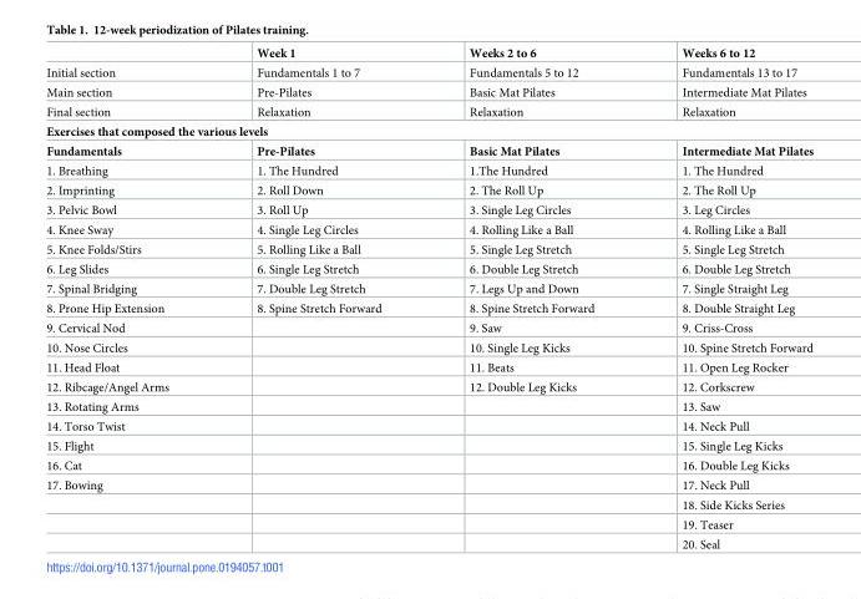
<table><thead><tr><td></td><td>Week 1</td><td>Weeks 2 to 6</td><td>Weeks 6 to 12</td></tr></thead><tbody><tr><td>Initial section</td><td>Fundamentals 1 to 7</td><td>Fundamentals 5 to 12</td><td>Fundamentals 13 to 17</td></tr><tr><td>Main section</td><td>Pre-Pilates</td><td>Basic Mat Pilates</td><td>Intermediate Mat Pilates</td></tr><tr><td>Final section</td><td>Relaxation</td><td>Relaxation</td><td>Relaxation</td></tr><tr><td colspan="4">Exercises that composed the various levels</td></tr><tr><td>Fundamentals</td><td>Pre-Pilates</td><td>Basic Mat Pilates</td><td>Intermediate Mat Pilates</td></tr><tr><td>1. Breathing</td><td>1. The Hundred</td><td>1.The Hundred</td><td>1. The Hundred</td></tr><tr><td>2. Imprinting</td><td>2. Roll Down</td><td>2. The Roll Up</td><td>2. The Roll Up</td></tr><tr><td>3. Pelvic Bowl</td><td>3. Roll Up</td><td>3. Single Leg Circles</td><td>3. Leg Circles</td></tr><tr><td>4. Knee Sway</td><td>4. Single Leg Circles</td><td>4. Rolling Like a Ball</td><td>4. Rolling Like a Ball</td></tr><tr><td>5. Knee Folds/Stirs</td><td>5. Rolling Like a Ball</td><td>5. Single Leg Stretch</td><td>5. Single Leg Stretch</td></tr><tr><td>6. Leg Slides</td><td>6. Single Leg Stretch</td><td>6. Double Leg Stretch</td><td>6. Double Leg Stretch</td></tr><tr><td>7. Spinal Bridging</td><td>7. Double Leg Stretch</td><td>7. Legs Up and Down</td><td>7. Single Straight Leg</td></tr><tr><td>8. Prone Hip Extension</td><td>8. Spine Stretch Forward</td><td>8. Spine Stretch Forward</td><td>8. Double Straight Leg</td></tr><tr><td>9. Cervical Nod</td><td></td><td>9. Saw</td><td>9. Criss-Cross</td></tr><tr><td>10. Nose Circles</td><td></td><td>10. Single Leg Kicks</td><td>10. Spine Stretch Forward</td></tr><tr><td>11. Head Float</td><td></td><td>11. Beats</td><td>11. Open Leg Rocker</td></tr><tr><td>12. Ribcage/Angel Arms</td><td></td><td>12. Double Leg Kicks</td><td>12. Corkscrew</td></tr><tr><td>13. Rotating Arms</td><td></td><td></td><td>13. Saw</td></tr><tr><td>14. Torso Twist</td><td></td><td></td><td>14. Neck Pull</td></tr><tr><td>15. Flight</td><td></td><td></td><td>15. Single Leg Kicks</td></tr><tr><td>16. Cat</td><td></td><td></td><td>16. Double Leg Kicks</td></tr><tr><td rowspan="4">17. Bowing</td><td></td><td></td><td>17. Neck Pull</td></tr><tr><td></td><td></td><td>18. Side Kicks Series</td></tr><tr><td></td><td></td><td>19. Teaser</td></tr><tr><td></td><td></td><td>20. Seal</td></tr></tbody></table>